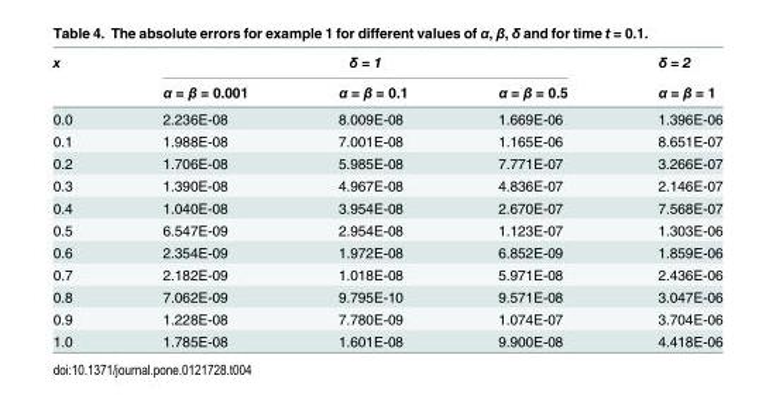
<table><thead><tr><td rowspan="2">x</td><td colspan="3">δ = 1</td><td rowspan="2">δ = 2 α = β = 1</td></tr><tr><td>α = β = 0.001</td><td>α = β = 0.1</td><td>α = β = 0.5</td></tr></thead><tbody><tr><td>0.0</td><td>2.236E-08</td><td>8.009E-08</td><td>1.669E-06</td><td>1.396E-06</td></tr><tr><td>0.1</td><td>1.988E-08</td><td>7.001E-08</td><td>1.165E-06</td><td>8.651E-07</td></tr><tr><td>0.2</td><td>1.706E-08</td><td>5.985E-08</td><td>7.771E-07</td><td>3.266E-07</td></tr><tr><td>0.3</td><td>1.390E-08</td><td>4.967E-08</td><td>4.836E-07</td><td>2.146E-07</td></tr><tr><td>0.4</td><td>1.040E-08</td><td>3.954E-08</td><td>2.670E-07</td><td>7.568E-07</td></tr><tr><td>0.5</td><td>6.547E-09</td><td>2.954E-08</td><td>1.123E-07</td><td>1.303E-06</td></tr><tr><td>0.6</td><td>2.354E-09</td><td>1.972E-08</td><td>6.852E-09</td><td>1.859E-06</td></tr><tr><td>0.7</td><td>2.182E-09</td><td>1.018E-08</td><td>5.971E-08</td><td>2.436E-06</td></tr><tr><td>0.8</td><td>7.062E-09</td><td>9.795E-10</td><td>9.571E-08</td><td>3.047E-06</td></tr><tr><td>0.9</td><td>1.228E-08</td><td>7.780E-09</td><td>1.074E-07</td><td>3.704E-06</td></tr><tr><td>1.0</td><td>1.785E-08</td><td>1.601E-08</td><td>9.900E-08</td><td>4.418E-06</td></tr></tbody></table>